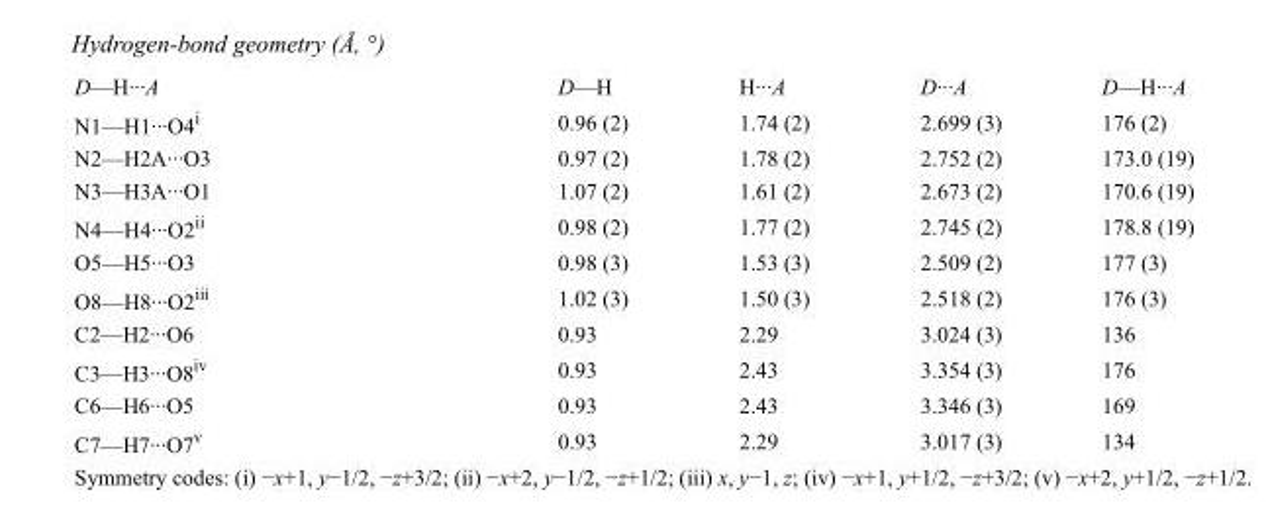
<table><tbody><tr><td>D—H···A</td><td>D—H</td><td>H···A</td><td>D···A</td><td>D—H···A</td></tr><tr><td>N1—H1···O4<sup>i</sup></td><td>0.96 (2)</td><td>1.74 (2)</td><td>2.699 (3)</td><td>176 (2)</td></tr><tr><td>N2—H2A···O3</td><td>0.97 (2)</td><td>1.78 (2)</td><td>2.752 (2)</td><td>173.0 (19)</td></tr><tr><td>N3—H3A···O1</td><td>1.07 (2)</td><td>1.61 (2)</td><td>2.673 (2)</td><td>170.6 (19)</td></tr><tr><td>N4—H4···O2<sup>ii</sup></td><td>0.98 (2)</td><td>1.77 (2)</td><td>2.745 (2)</td><td>178.8 (19)</td></tr><tr><td>O5—H5···O3</td><td>0.98 (3)</td><td>1.53 (3)</td><td>2.509 (2)</td><td>177 (3)</td></tr><tr><td>O8—H8···O2<sup>iii</sup></td><td>1.02 (3)</td><td>1.50 (3)</td><td>2.518 (2)</td><td>176 (3)</td></tr><tr><td>C2—H2···O6</td><td>0.93</td><td>2.29</td><td>3.024 (3)</td><td>136</td></tr><tr><td>C3—H3···O8<sup>iv</sup></td><td>0.93</td><td>2.43</td><td>3.354 (3)</td><td>176</td></tr><tr><td>C6—H6···O5</td><td>0.93</td><td>2.43</td><td>3.346 (3)</td><td>169</td></tr><tr><td>C7—H7···O7<sup>v</sup></td><td>0.93</td><td>2.29</td><td>3.017 (3)</td><td>134</td></tr></tbody></table>